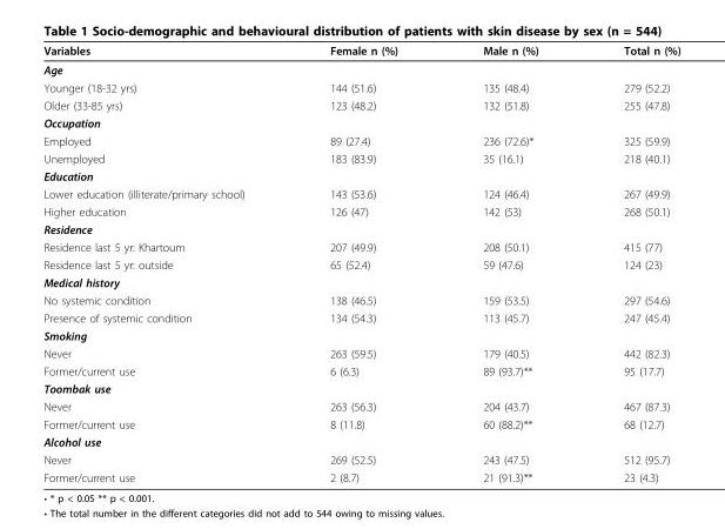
<table><thead><tr><td>Variables</td><td>Female n (%)</td><td>Male n (%)</td><td>Total n (%)</td></tr></thead><tbody><tr><td colspan="4">Age</td></tr><tr><td>Younger (18-32 yrs)</td><td>144 (51.6)</td><td>135 (48.4)</td><td>279 (52.2)</td></tr><tr><td>Older (33-85 yrs)</td><td>123 (48.2)</td><td>132 (51.8)</td><td>255 (47.8)</td></tr><tr><td colspan="4">Occupation</td></tr><tr><td>Employed</td><td>89 (27.4)</td><td>236 (72.6)*</td><td>325 (59.9)</td></tr><tr><td>Unemployed</td><td>183 (83.9)</td><td>35 (16.1)</td><td>218 (40.1)</td></tr><tr><td colspan="4">Education</td></tr><tr><td>Lower education (illiterate/primary school)</td><td>143 (53.6)</td><td>124 (46.4)</td><td>267 (49.9)</td></tr><tr><td>Higher education</td><td>126 (47)</td><td>142 (53)</td><td>268 (50.1)</td></tr><tr><td colspan="4">Residence</td></tr><tr><td>Residence last 5 yr: Khartoum</td><td>207 (49.9)</td><td>208 (50.1)</td><td>415 (77)</td></tr><tr><td>Residence last 5 yr: outside</td><td>65 (52.4)</td><td>59 (47.6)</td><td>124 (23)</td></tr><tr><td colspan="4">Medical history</td></tr><tr><td>No systemic condition</td><td>138 (46.5)</td><td>159 (53.5)</td><td>297 (54.6)</td></tr><tr><td>Presence of systemic condition</td><td>134 (54.3)</td><td>113 (45.7)</td><td>247 (45.4)</td></tr><tr><td colspan="4">Smoking</td></tr><tr><td>Never</td><td>263 (59.5)</td><td>179 (40.5)</td><td>442 (82.3)</td></tr><tr><td>Former/current use</td><td>6 (6.3)</td><td>89 (93.7)**</td><td>95 (17.7)</td></tr><tr><td colspan="4">Toombak use</td></tr><tr><td>Never</td><td>263 (56.3)</td><td>204 (43.7)</td><td>467 (87.3)</td></tr><tr><td>Former/current use</td><td>8 (11.8)</td><td>60 (88.2)**</td><td>68 (12.7)</td></tr><tr><td colspan="4">Alcohol use</td></tr><tr><td>Never</td><td>269 (52.5)</td><td>243 (47.5)</td><td>512 (95.7)</td></tr><tr><td>Former/current use</td><td>2 (8.7)</td><td>21 (91.3)**</td><td>23 (4.3)</td></tr></tbody></table>